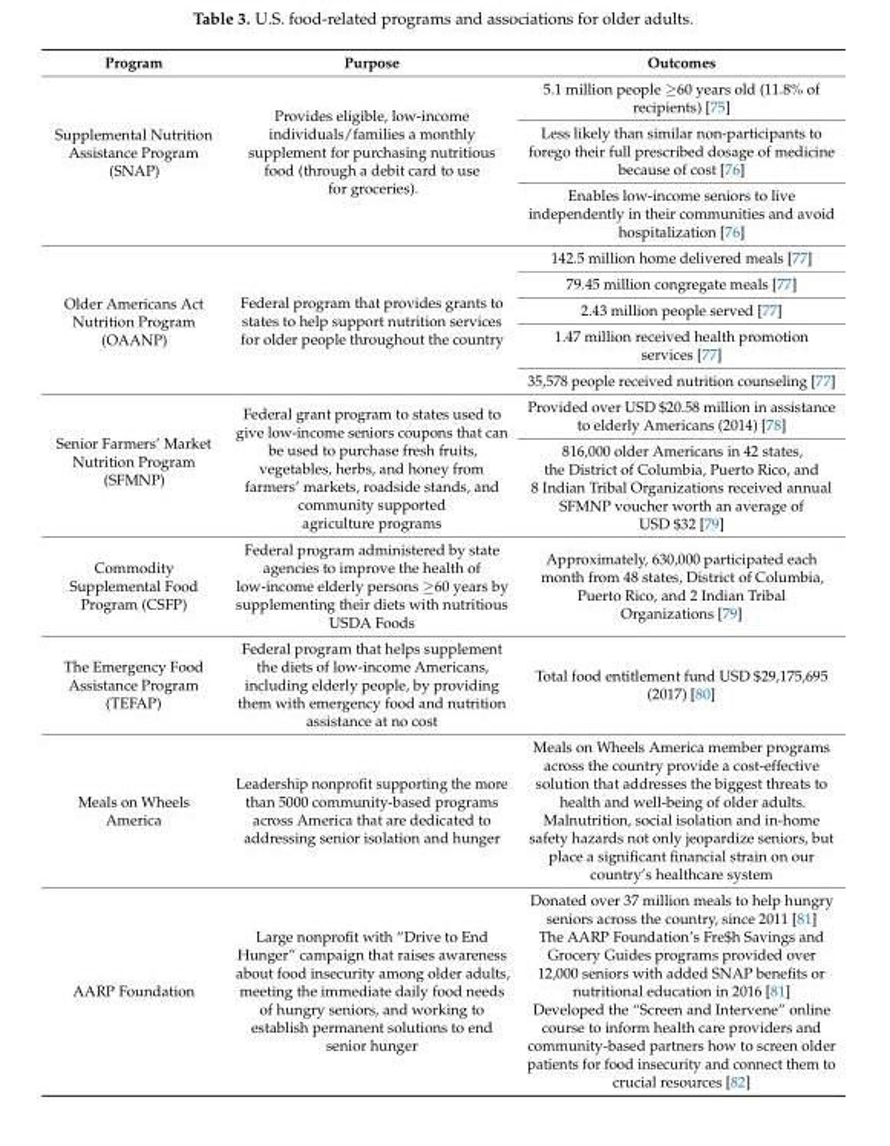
<table><thead><tr><td>Program</td><td>Purpose</td><td>Outcomes</td></tr></thead><tbody><tr><td rowspan="3">Supplemental Nutrition Assistance Program (SNAP)</td><td rowspan="3">Provides eligible, low-income individuals/families a monthly supplement for purchasing nutritious food (through a debit card to use for groceries).</td><td>5.1 million people ≥60 years old (11.8% of recipients) [75]</td></tr><tr><td>Less likely than similar non-participants to forego their full prescribed dosage of medicine because of cost [76]</td></tr><tr><td>Enables low-income seniors to live independently in their communities and avoid hospitalization [76]</td></tr><tr><td rowspan="5">Older Americans Act Nutrition Program (OAANP)</td><td rowspan="5">Federal program that provides grants to states to help support nutrition services for older people throughout the country</td><td>142.5 million home delivered meals [77]</td></tr><tr><td>79.45 million congregate meals [77]</td></tr><tr><td>2.43 million people served [77]</td></tr><tr><td>1.47 million received health promotion services [77]</td></tr><tr><td>35,578 people received nutrition counseling [77]</td></tr><tr><td rowspan="2">Senior Farmers’ Market Nutrition Program (SFMNP)</td><td rowspan="2">Federal grant program to states used to give low-income seniors coupons that can be used to purchase fresh fruits, vegetables, herbs, and honey from farmers’ markets, roadside stands, and community supported agriculture programs</td><td>Provided over USD $20.58 million in assistance to elderly Americans (2014) [78]</td></tr><tr><td>816,000 older Americans in 42 states, the District of Columbia, Puerto Rico, and 8 Indian Tribal Organizations received annual SFMNP voucher worth an average of USD $32 [79]</td></tr><tr><td>Commodity Supplemental Food Program (CSFP)</td><td>Federal program administered by state agencies to improve the health of low-income elderly persons ≥60 years by supplementing their diets with nutritious USDA Foods</td><td>Approximately, 630,000 participated each month from 48 states, District of Columbia, Puerto Rico, and 2 Indian Tribal Organizations [79]</td></tr><tr><td>The Emergency Food Assistance Program (TEFAP)</td><td>Federal program that helps supplement the diets of low-income Americans, including elderly people, by providing them with emergency food and nutrition assistance at no cost</td><td>Total food entitlement fund USD $29,175,695 (2017) [80]</td></tr><tr><td>Meals on Wheels America</td><td>Leadership nonprofit supporting the more than 5000 community-based programs across America that are dedicated to addressing senior isolation and hunger</td><td>Meals on Wheels America member programs across the country provide a cost-effective solution that addresses the biggest threats to health and well-being of older adults. Malnutrition, social isolation and in-home safety hazards not only jeopardize seniors, but place a significant financial strain on our country’s healthcare system</td></tr><tr><td>AARP Foundation</td><td>Large nonprofit with “Drive to End Hunger” campaign that raises awareness about food insecurity among older adults, meeting the immediate daily food needs of hungry seniors, and working to establish permanent solutions to end senior hunger</td><td>Donated over 37 million meals to help hungry seniors across the country, since 2011 [81] The AARP Foundation’s Fre$h Savings and Grocery Guides programs provided over 12,000 seniors with added SNAP benefits or nutritional education in 2016 [81] Developed the “Screen and Intervene” online course to inform health care providers and community-based partners how to screen older patients for food insecurity and connect them to crucial resources [82]</td></tr></tbody></table>